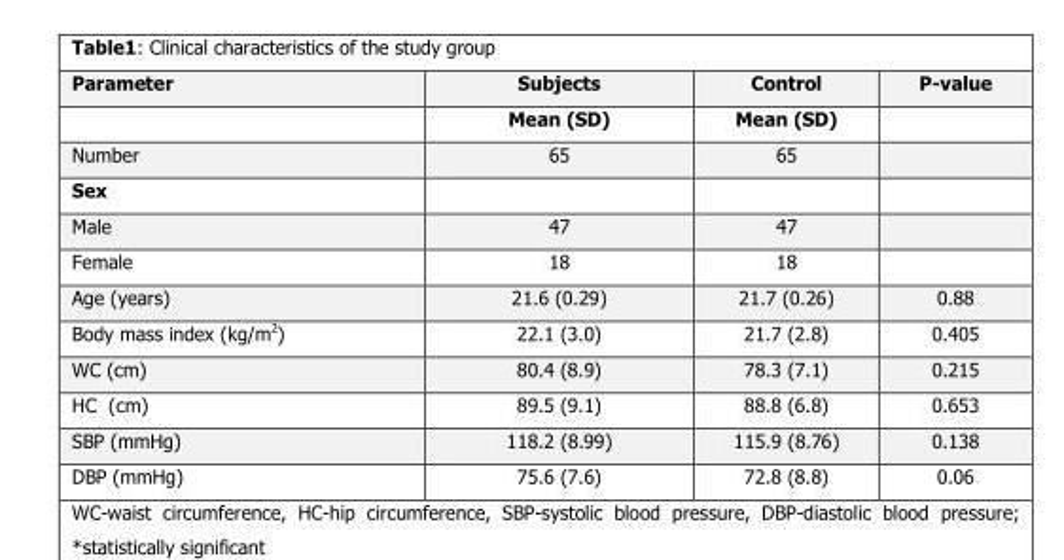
<table><thead><tr><td rowspan="2">Parameter</td><td rowspan="2">Subjects Mean (SD)</td><td rowspan="2">Control Mean (SD)</td><td rowspan="2">P-value</td></tr><tr></tr></thead><tbody><tr><td>Number</td><td>65</td><td>65</td><td></td></tr><tr><td colspan="4">Sex</td></tr><tr><td>Male</td><td>47</td><td>47</td><td></td></tr><tr><td>Female</td><td>18</td><td>18</td><td></td></tr><tr><td>Age (years)</td><td>21.6 (0.29)</td><td>21.7 (0.26)</td><td>0.88</td></tr><tr><td>Body mass index (kg/m<sup>2</sup>)</td><td>22.1 (3.0)</td><td>21.7 (2.8)</td><td>0.405</td></tr><tr><td>WC (cm)</td><td>80.4 (8.9)</td><td>78.3 (7.1)</td><td>0.215</td></tr><tr><td>HC (cm)</td><td>89.5 (9.1)</td><td>88.8 (6.8)</td><td>0.653</td></tr><tr><td>SBP (mmHg)</td><td>118.2 (8.99)</td><td>115.9 (8.76)</td><td>0.138</td></tr><tr><td>DBP (mmHg)</td><td>75.6 (7.6)</td><td>72.8 (8.8)</td><td>0.06</td></tr></tbody></table>